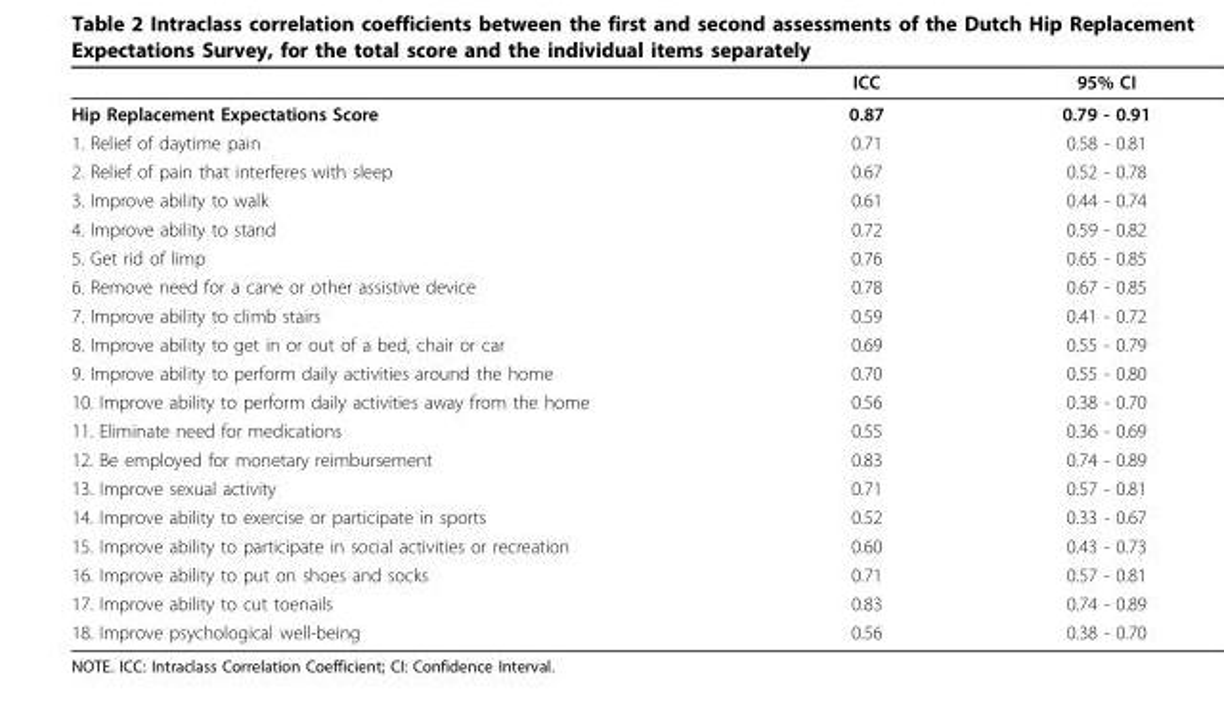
<table><thead><tr><td></td><td>ICC</td><td>95% CI</td></tr></thead><tbody><tr><td>Hip Replacement Expectations Score</td><td>0.87</td><td>0.79 - 0.91</td></tr><tr><td>1. Relief of daytime pain</td><td>0.71</td><td>0.58 - 0.81</td></tr><tr><td>2. Relief of pain that interferes with sleep</td><td>0.67</td><td>0.52 - 0.78</td></tr><tr><td>3. Improve ability to walk</td><td>0.61</td><td>0.44 - 0.74</td></tr><tr><td>4. Improve ability to stand</td><td>0.72</td><td>0.59 - 0.82</td></tr><tr><td>5. Get rid of limp</td><td>0.76</td><td>0.65 - 0.85</td></tr><tr><td>6. Remove need for a cane or other assistive device</td><td>0.78</td><td>0.67 - 0.85</td></tr><tr><td>7. Improve ability to climb stairs</td><td>0.59</td><td>0.41 - 0.72</td></tr><tr><td>8. Improve ability to get in or out of a bed, chair or car</td><td>0.69</td><td>0.55 - 0.79</td></tr><tr><td>9. Improve ability to perform daily activities around the home</td><td>0.70</td><td>0.55 - 0.80</td></tr><tr><td>10. Improve ability to perform daily activities away from the home</td><td>0.56</td><td>0.38 - 0.70</td></tr><tr><td>11. Eliminate need for medications</td><td>0.55</td><td>0.36 - 0.69</td></tr><tr><td>12. Be employed for monetary reimbursement</td><td>0.83</td><td>0.74 - 0.89</td></tr><tr><td>13. Improve sexual activity</td><td>0.71</td><td>0.57 - 0.81</td></tr><tr><td>14. Improve ability to exercise or participate in sports</td><td>0.52</td><td>0.33 - 0.67</td></tr><tr><td>15. Improve ability to participate in social activities or recreation</td><td>0.60</td><td>0.43 - 0.73</td></tr><tr><td>16. Improve ability to put on shoes and socks</td><td>0.71</td><td>0.57 - 0.81</td></tr><tr><td>17. Improve ability to cut toenails</td><td>0.83</td><td>0.74 - 0.89</td></tr><tr><td>18. Improve psychological well-being</td><td>0.56</td><td>0.38 - 0.70</td></tr></tbody></table>